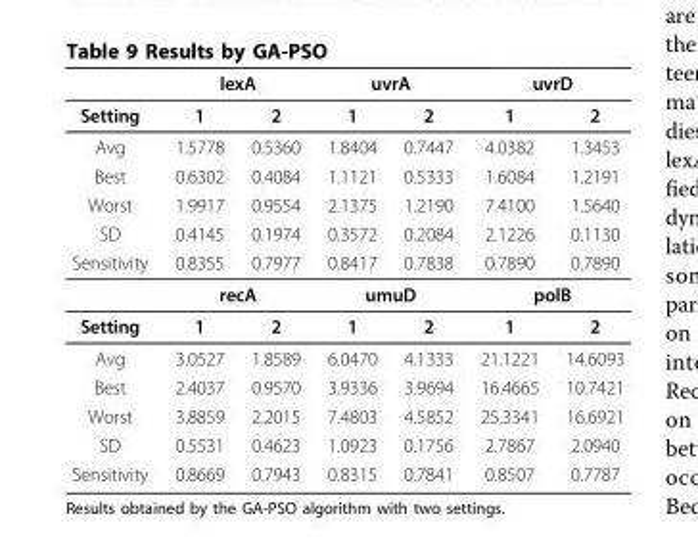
<table><thead><tr><td rowspan="2">Setting</td><td colspan="2">lexA</td><td colspan="2">uvrA</td><td colspan="2">uvrD</td></tr><tr><td>1</td><td>2</td><td>1</td><td>2</td><td>1</td><td>2</td></tr></thead><tbody><tr><td>Avg</td><td>1.5778</td><td>0.5360</td><td>1.8404</td><td>0.7447</td><td>4.0382</td><td>1.3453</td></tr><tr><td>Best</td><td>0.6302</td><td>0.4084</td><td>1.1121</td><td>0.5333</td><td>1.6084</td><td>1.2191</td></tr><tr><td>Worst</td><td>1.9917</td><td>0.9554</td><td>2.1375</td><td>1.2190</td><td>7.4100</td><td>1.5640</td></tr><tr><td>SD</td><td>0.4145</td><td>0.1974</td><td>0.3572</td><td>0.2084</td><td>2.1226</td><td>0.1130</td></tr><tr><td rowspan="2">Sensitivity</td><td>0.8355</td><td>0.7977</td><td>0.8417</td><td>0.7838</td><td>0.7890</td><td>0.7890</td></tr><tr><td colspan="2">recA</td><td colspan="2">umuD</td><td colspan="2">polB</td></tr><tr><td>Setting</td><td>1</td><td>2</td><td>1</td><td>2</td><td>1</td><td>2</td></tr><tr><td>Avg</td><td>3.0527</td><td>1.8589</td><td>6.0470</td><td>4.1333</td><td>21.1221</td><td>14.6093</td></tr><tr><td>Best</td><td>2.4037</td><td>0.9570</td><td>3.9336</td><td>3.9694</td><td>16.4665</td><td>10.7421</td></tr><tr><td>Worst</td><td>3.8859</td><td>2.2015</td><td>7.4803</td><td>4.5852</td><td>25.3341</td><td>16.6921</td></tr><tr><td>SD</td><td>0.5531</td><td>0.4623</td><td>1.0923</td><td>0.1756</td><td>2.7867</td><td>2.0940</td></tr><tr><td>Sensitivity</td><td>0.8669</td><td>0.7943</td><td>0.8315</td><td>0.7841</td><td>0.8507</td><td>0.7787</td></tr></tbody></table>